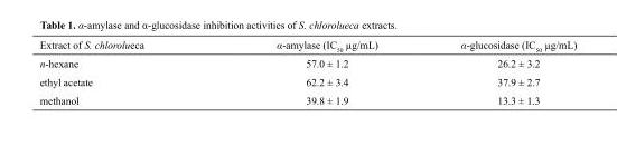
<table><thead><tr><td>Extract of S. chlorolueca</td><td>α-amylase (IC<sub>50</sub> µg/mL)</td><td>α-glucosidase (IC<sub>50</sub> µg/mL)</td></tr></thead><tbody><tr><td>n-hexane</td><td>57.0 ± 1.2</td><td>26.2 ± 3.2</td></tr><tr><td>ethyl acetate</td><td>62.2 ± 3.4</td><td>37.9 ± 2.7</td></tr><tr><td>methanol</td><td>39.8 ± 1.9</td><td>13.3 ± 1.3</td></tr></tbody></table>